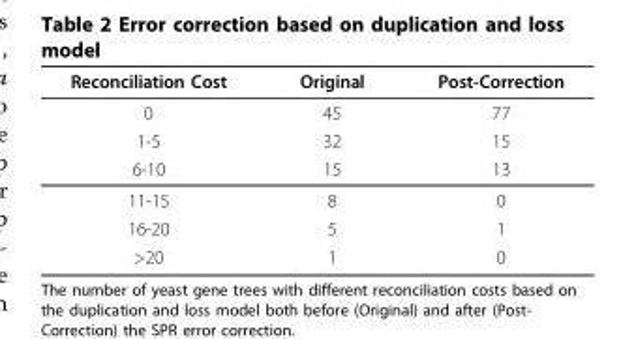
<table><thead><tr><td>Reconciliation Cost</td><td>Original</td><td>Post-Correction</td></tr></thead><tbody><tr><td>0</td><td>45</td><td>77</td></tr><tr><td>1-5</td><td>32</td><td>15</td></tr><tr><td>6-10</td><td>15</td><td>13</td></tr><tr><td>11-15</td><td>8</td><td>0</td></tr><tr><td>16-20</td><td>5</td><td>1</td></tr><tr><td>&gt;20</td><td>1</td><td>0</td></tr></tbody></table>